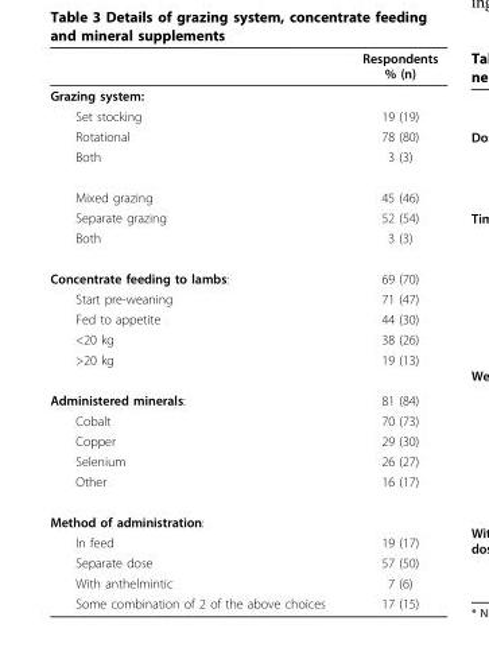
<table><thead><tr><td></td><td>Respondents % (n)</td></tr></thead><tbody><tr><td colspan="2">Grazing system:</td></tr><tr><td>Set stocking</td><td>19 (19)</td></tr><tr><td>Rotational</td><td>78 (80)</td></tr><tr><td>Both</td><td>3 (3)</td></tr><tr><td>Mixed grazing</td><td>45 (46)</td></tr><tr><td>Separate grazing</td><td>52 (54)</td></tr><tr><td>Both</td><td>3 (3)</td></tr><tr><td>Concentrate feeding to lambs:</td><td>69 (70)</td></tr><tr><td>Start pre-weaning</td><td>71 (47)</td></tr><tr><td>Fed to appetite</td><td>44 (30)</td></tr><tr><td>&lt;20 kg</td><td>38 (26)</td></tr><tr><td>&gt;20 kg</td><td>19 (13)</td></tr><tr><td>Administered minerals:</td><td>81 (84)</td></tr><tr><td>Cobalt</td><td>70 (73)</td></tr><tr><td>Copper</td><td>29 (30)</td></tr><tr><td>Selenium</td><td>26 (27)</td></tr><tr><td>Other</td><td>16 (17)</td></tr><tr><td colspan="2">Method of administration:</td></tr><tr><td>In feed</td><td>19 (17)</td></tr><tr><td>Separate dose</td><td>57 (50)</td></tr><tr><td>With anthelmintic</td><td>7 (6)</td></tr><tr><td>Some combination of 2 of the above choices</td><td>17 (15)</td></tr></tbody></table>